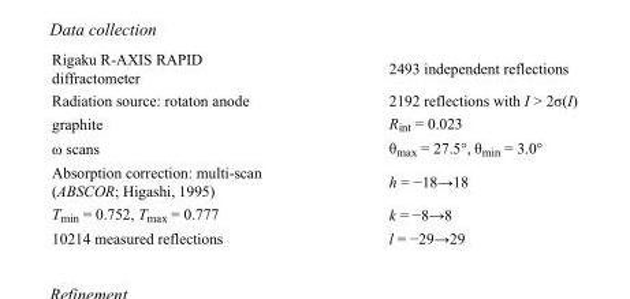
<table><tbody><tr><td>Rigaku R-AXIS RAPID diffractometer</td><td>2493 independent reflections</td></tr><tr><td>Radiation source: rotaton anode</td><td>2192 reflections with I &gt; 2σ(I)</td></tr><tr><td>graphite</td><td>R<sub>int</sub> = 0.023</td></tr><tr><td>ω scans</td><td>θ<sub>max</sub> = 27.5°, θ<sub>min</sub> = 3.0°</td></tr><tr><td>Absorption correction: multi-scan (ABSCOR; Higashi, 1995)</td><td>h = −18→18</td></tr><tr><td>T<sub>min</sub> = 0.752, T<sub>max</sub> = 0.777</td><td>k = −8→8</td></tr><tr><td>10214 measured reflections</td><td>l = −29→29</td></tr></tbody></table>